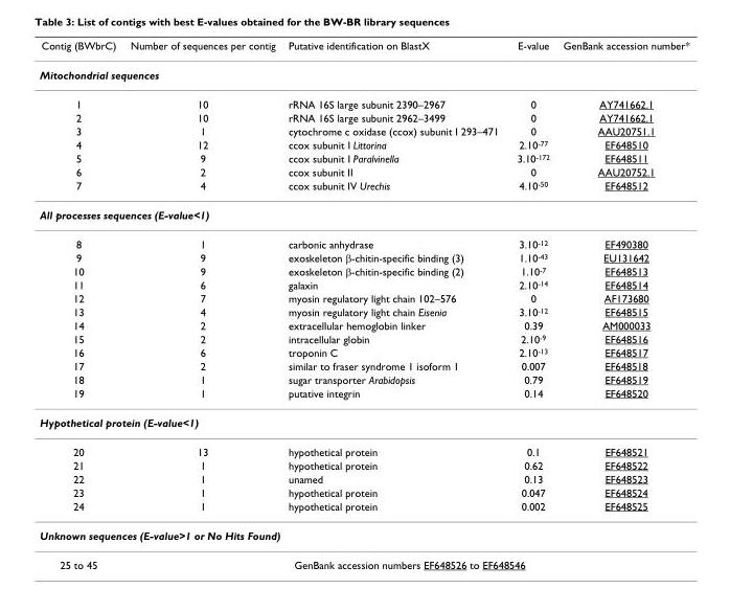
<table><thead><tr><td>Contig (BWbrC)</td><td>Number of sequences per contig</td><td>Putative identification on BlastX</td><td>E-value</td><td>GenBank accession number*</td></tr></thead><tbody><tr><td colspan="5">Mitochondrial sequences</td></tr><tr><td>1</td><td>10</td><td>rRNA 16S large subunit 2390–2967</td><td>0</td><td>AY741662.1</td></tr><tr><td>2</td><td>10</td><td>rRNA 16S large subunit 2962–3499</td><td>0</td><td>AY741662.1</td></tr><tr><td>3</td><td>1</td><td>cytochrome c oxidase (ccox) subunit I 293–471</td><td>0</td><td>AAU20751.1</td></tr><tr><td>4</td><td>12</td><td>ccox subunit I Littorina</td><td>2.10<sup>-77</sup></td><td>EF648510</td></tr><tr><td>5</td><td>9</td><td>ccox subunit I Paralvinella</td><td>3.10<sup>-172</sup></td><td>EF648511</td></tr><tr><td>6</td><td>2</td><td>ccox subunit II</td><td>0</td><td>AAU20752.1</td></tr><tr><td>7</td><td>4</td><td>ccox subunit IV Urechis</td><td>4.10<sup>-50</sup></td><td>EF648512</td></tr><tr><td colspan="5">All processes sequences (E-value&lt;1)</td></tr><tr><td>8</td><td>1</td><td>carbonic anhydrase</td><td>3.10<sup>-12</sup></td><td>EF490380</td></tr><tr><td>9</td><td>9</td><td>exoskeleton β-chitin-specific binding (3)</td><td>1.10<sup>-43</sup></td><td>EU131642</td></tr><tr><td>10</td><td>9</td><td>exoskeleton β-chitin-specific binding (2)</td><td>1.10<sup>-7</sup></td><td>EF648513</td></tr><tr><td>11</td><td>6</td><td>galaxin</td><td>2.10<sup>-14</sup></td><td>EF648514</td></tr><tr><td>12</td><td>7</td><td>myosin regulatory light chain 102–576</td><td>0</td><td>AF173680</td></tr><tr><td>13</td><td>4</td><td>myosin regulatory light chain Eisenia</td><td>3.10<sup>-12</sup></td><td>EF648515</td></tr><tr><td>14</td><td>2</td><td>extracellular hemoglobin linker</td><td>0.39</td><td>AM000033</td></tr><tr><td>15</td><td>2</td><td>intracellular globin</td><td>2.10<sup>-9</sup></td><td>EF648516</td></tr><tr><td>16</td><td>6</td><td>troponin C</td><td>2.10<sup>-13</sup></td><td>EF648517</td></tr><tr><td>17</td><td>2</td><td>similar to fraser syndrome 1 isoform 1</td><td>0.007</td><td>EF648518</td></tr><tr><td>18</td><td>1</td><td>sugar transporter Arabidopsis</td><td>0.79</td><td>EF648519</td></tr><tr><td>19</td><td>1</td><td>putative integrin</td><td>0.14</td><td>EF648520</td></tr><tr><td colspan="5">Hypothetical protein (E-value&lt;1)</td></tr><tr><td>20</td><td>13</td><td>hypothetical protein</td><td>0.1</td><td>EF648521</td></tr><tr><td>21</td><td>1</td><td>hypothetical protein</td><td>0.62</td><td>EF648522</td></tr><tr><td>22</td><td>1</td><td>unamed</td><td>0.13</td><td>EF648523</td></tr><tr><td>23</td><td>1</td><td>hypothetical protein</td><td>0.047</td><td>EF648524</td></tr><tr><td>24</td><td>1</td><td>hypothetical protein</td><td>0.002</td><td>EF648525</td></tr><tr><td colspan="5">Unknown sequences (E-value&gt;1 or No Hits Found)</td></tr><tr><td>25 to 45</td><td colspan="4">GenBank accession numbers EF648526 to EF648546</td></tr></tbody></table>